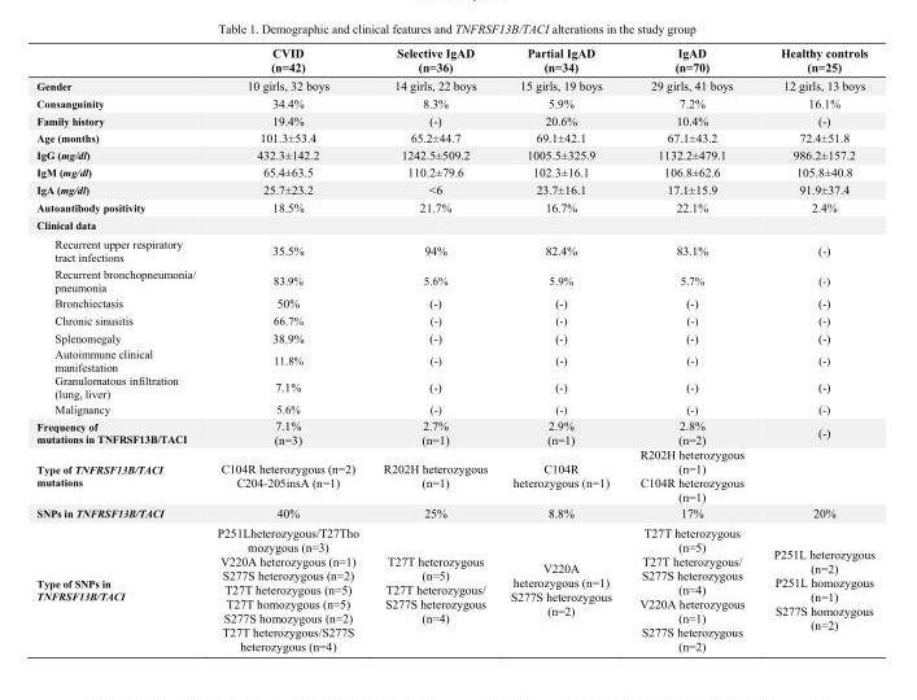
<table><thead><tr><td></td><td>CVID (n=42)</td><td>Selective IgAD (n=36)</td><td>Partial IgAD (n=34)</td><td>IgAD (n=70)</td><td>Healthy controls (n=25)</td></tr></thead><tbody><tr><td>Gender</td><td>10 girls, 32 boys</td><td>14 girls, 22 boys</td><td>15 girls, 19 boys</td><td>29 girls, 41 boys</td><td>12 girls, 13 boys</td></tr><tr><td>Consanguinity</td><td>34.4%</td><td>8.3%</td><td>5.9%</td><td>7.2%</td><td>16.1%</td></tr><tr><td>Family history</td><td>19.4%</td><td>(-)</td><td>20.6%</td><td>10.4%</td><td>(-)</td></tr><tr><td>Age (months)</td><td>101.3±53.4</td><td>65.2±44.7</td><td>69.1±42.1</td><td>67.1±43.2</td><td>72.4±51.8</td></tr><tr><td>IgG (mg/dl)</td><td>432.3±142.2</td><td>1242.5±509.2</td><td>1005.5±325.9</td><td>1132.2±479.1</td><td>986.2±157.2</td></tr><tr><td>IgM (mg/dl)</td><td>65.4±63.5</td><td>110.2±79.6</td><td>102.3±16.1</td><td>106.8±62.6</td><td>105.8±40.8</td></tr><tr><td>IgA (mg/dl)</td><td>25.7±23.2</td><td>&lt;6</td><td>23.7±16.1</td><td>17.1±15.9</td><td>91.9±37.4</td></tr><tr><td>Autoantibody positivity</td><td>18.5%</td><td>21.7%</td><td>16.7%</td><td>22.1%</td><td>2.4%</td></tr><tr><td colspan="6">Clinical data</td></tr><tr><td>Recurrent upper respiratory tract infections</td><td>35.5%</td><td>94%</td><td>82.4%</td><td>83.1%</td><td>(-)</td></tr><tr><td>Recurrent bronchopneumonia/ pneumonia</td><td>83.9%</td><td>5.6%</td><td>5.9%</td><td>5.7%</td><td>(-)</td></tr><tr><td>Bronchiectasis</td><td>50%</td><td>(-)</td><td>(-)</td><td>(-)</td><td>(-)</td></tr><tr><td>Chronic sinusitis</td><td>66.7%</td><td>(-)</td><td>(-)</td><td>(-)</td><td>(-)</td></tr><tr><td>Splenomegaly</td><td>38.9%</td><td>(-)</td><td>(-)</td><td>(-)</td><td>(-)</td></tr><tr><td>Autoimmune clinical manifestation</td><td>11.8%</td><td>(-)</td><td>(-)</td><td>(-)</td><td>(-)</td></tr><tr><td>Granulomatous infiltration (lung, liver)</td><td>7.1%</td><td>(-)</td><td>(-)</td><td>(-)</td><td>(-)</td></tr><tr><td>Malignancy</td><td>5.6%</td><td>(-)</td><td>(-)</td><td>(-)</td><td>(-)</td></tr><tr><td>Frequency of mutations in TNFRSF13B/TACI</td><td>7.1% (n=3)</td><td>2.7% (n=1)</td><td>2.9% (n=1)</td><td>2.8% (n=2)</td><td>(-)</td></tr><tr><td>Type of TNFRSF13B/TACI mutations</td><td>C104R heterozygous (n=2) C204-205insA (n=1)</td><td>R202H heterozygous (n=1)</td><td>C104R heterozygous (n=1)</td><td>R202H heterozygous (n=1) C104R heterozygous (n=1)</td><td></td></tr><tr><td>SNPs in TNFRSF13B/TACI</td><td>40%</td><td>25%</td><td>8.8%</td><td>17%</td><td>20%</td></tr><tr><td>Type of SNPs in TNFRSF13B/TACI</td><td>P251Lheterozygous/T27Tho mozygous (n=3) V220A heterozygous (n=1) S277S heterozygous (n=2) T27T heterozygous (n=5) T27T homozygous (n=5) S277S homozygous (n=2) T27T heterozygous/S277S heterozygous (n=4)</td><td>T27T heterozygous (n=5) T27T heterozygous/ S277S heterozygous (n=4)</td><td>V220A heterozygous (n=1) S277S heterozygous (n=2)</td><td>T27T heterozygous (n=5) T27T heterozygous/ S277S heterozygous (n=4) V220A heterozygous (n=1) S277S heterozygous (n=2)</td><td>P251L heterozygous (n=2) P251L homozygous (n=1) S277S homozygous (n=2)</td></tr></tbody></table>